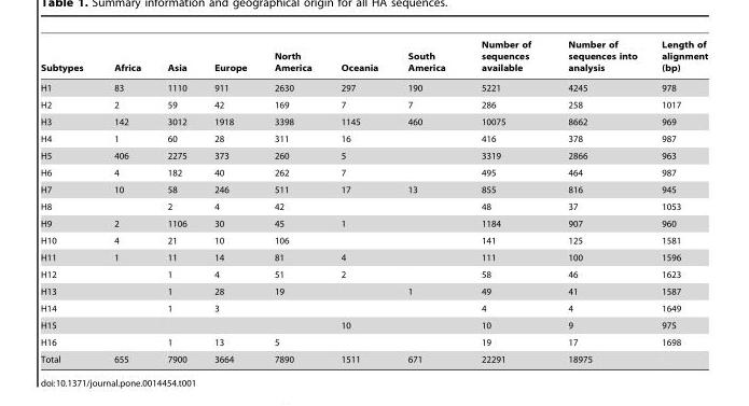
<table><thead><tr><td>Subtypes</td><td>Africa</td><td>Asia</td><td>Europe</td><td>North America</td><td>Oceania</td><td>South America</td><td>Number of sequences available</td><td>Number of sequences into analysis</td><td>Length of alignment (bp)</td></tr></thead><tbody><tr><td>H1</td><td>83</td><td>1110</td><td>911</td><td>2630</td><td>297</td><td>190</td><td>5221</td><td>4245</td><td>978</td></tr><tr><td>H2</td><td>2</td><td>59</td><td>42</td><td>169</td><td>7</td><td>7</td><td>286</td><td>258</td><td>1017</td></tr><tr><td>H3</td><td>142</td><td>3012</td><td>1918</td><td>3398</td><td>1145</td><td>460</td><td>10075</td><td>8662</td><td>969</td></tr><tr><td>H4</td><td>1</td><td>60</td><td>28</td><td>311</td><td>16</td><td></td><td>416</td><td>378</td><td>987</td></tr><tr><td>H5</td><td>406</td><td>2275</td><td>373</td><td>260</td><td>5</td><td></td><td>3319</td><td>2866</td><td>963</td></tr><tr><td>H6</td><td>4</td><td>182</td><td>40</td><td>262</td><td>7</td><td></td><td>495</td><td>464</td><td>987</td></tr><tr><td>H7</td><td>10</td><td>58</td><td>246</td><td>511</td><td>17</td><td>13</td><td>855</td><td>816</td><td>945</td></tr><tr><td>H8</td><td></td><td>2</td><td>4</td><td>42</td><td></td><td></td><td>48</td><td>37</td><td>1053</td></tr><tr><td>H9</td><td>2</td><td>1106</td><td>30</td><td>45</td><td>1</td><td></td><td>1184</td><td>907</td><td>960</td></tr><tr><td>H10</td><td>4</td><td>21</td><td>10</td><td>106</td><td></td><td></td><td>141</td><td>125</td><td>1581</td></tr><tr><td>H11</td><td>1</td><td>11</td><td>14</td><td>81</td><td>4</td><td></td><td>111</td><td>100</td><td>1596</td></tr><tr><td>H12</td><td></td><td>1</td><td>4</td><td>51</td><td>2</td><td></td><td>58</td><td>46</td><td>1623</td></tr><tr><td>H13</td><td></td><td>1</td><td>28</td><td>19</td><td></td><td>1</td><td>49</td><td>41</td><td>1587</td></tr><tr><td>H14</td><td></td><td>1</td><td>3</td><td></td><td></td><td></td><td>4</td><td>4</td><td>1649</td></tr><tr><td>H15</td><td></td><td></td><td></td><td></td><td>10</td><td></td><td>10</td><td>9</td><td>975</td></tr><tr><td>H16</td><td></td><td>1</td><td>13</td><td>5</td><td></td><td></td><td>19</td><td>17</td><td>1698</td></tr><tr><td>Total</td><td>655</td><td>7900</td><td>3664</td><td>7890</td><td>1511</td><td>671</td><td>22291</td><td>18975</td><td></td></tr></tbody></table>